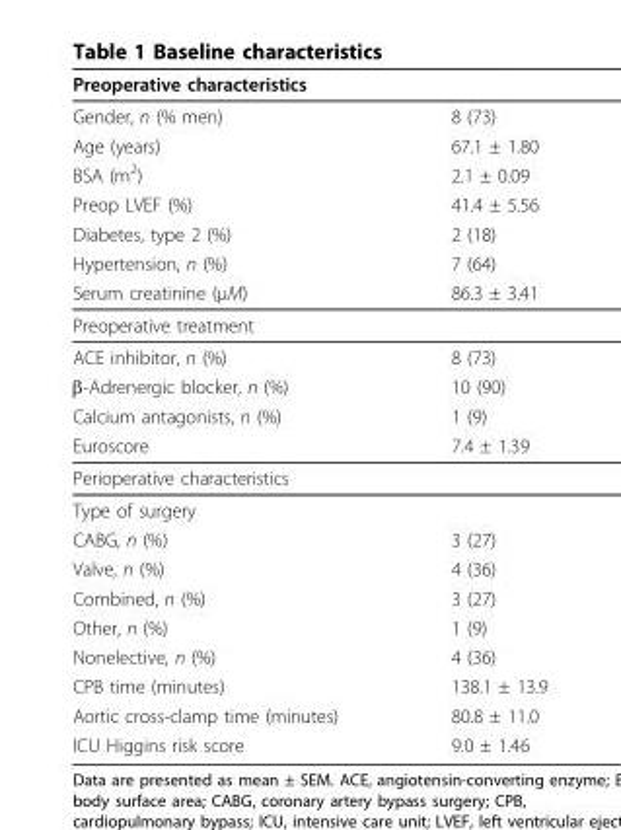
<table><thead><tr><td>Preoperative characteristics</td><td></td></tr></thead><tbody><tr><td>Gender, n (% men)</td><td>8 (73)</td></tr><tr><td>Age (years)</td><td>67.1 ± 1.80</td></tr><tr><td>BSA (m<sup>2</sup>)</td><td>2.1 ± 0.09</td></tr><tr><td>Preop LVEF (%)</td><td>41.4 ± 5.56</td></tr><tr><td>Diabetes, type 2 (%)</td><td>2 (18)</td></tr><tr><td>Hypertension, n (%)</td><td>7 (64)</td></tr><tr><td>Serum creatinine (µM)</td><td>86.3 ± 3.41</td></tr><tr><td colspan="2">Preoperative treatment</td></tr><tr><td>ACE inhibitor, n (%)</td><td>8 (73)</td></tr><tr><td>β-Adrenergic blocker, n (%)</td><td>10 (90)</td></tr><tr><td>Calcium antagonists, n (%)</td><td>1 (9)</td></tr><tr><td>Euroscore</td><td>7.4 ± 1.39</td></tr><tr><td colspan="2">Perioperative characteristics</td></tr><tr><td colspan="2">Type of surgery</td></tr><tr><td>CABG, n (%)</td><td>3 (27)</td></tr><tr><td>Valve, n (%)</td><td>4 (36)</td></tr><tr><td>Combined, n (%)</td><td>3 (27)</td></tr><tr><td>Other, n (%)</td><td>1 (9)</td></tr><tr><td>Nonelective, n (%)</td><td>4 (36)</td></tr><tr><td>CPB time (minutes)</td><td>138.1 ± 13.9</td></tr><tr><td>Aortic cross-clamp time (minutes)</td><td>80.8 ± 11.0</td></tr><tr><td>ICU Higgins risk score</td><td>9.0 ± 1.46</td></tr></tbody></table>